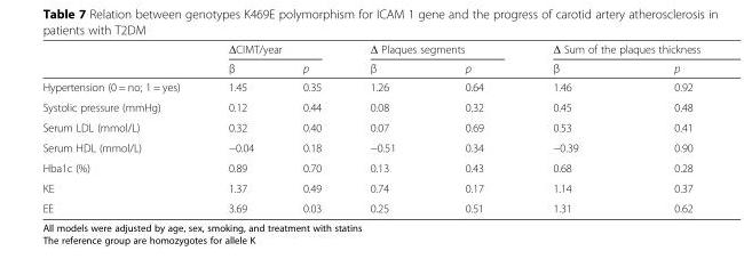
<table><thead><tr><td rowspan="2"></td><td colspan="2">ΔCIMT/year</td><td colspan="2">Δ Plaques segments</td><td colspan="2">Δ Sum of the plaques thickness</td></tr><tr><td>β</td><td>p</td><td>β</td><td>p</td><td>β</td><td>p</td></tr></thead><tbody><tr><td>Hypertension (0 = no; 1 = yes)</td><td>1.45</td><td>0.35</td><td>1.26</td><td>0.64</td><td>1.46</td><td>0.92</td></tr><tr><td>Systolic pressure (mmHg)</td><td>0.12</td><td>0.44</td><td>0.08</td><td>0.32</td><td>0.45</td><td>0.48</td></tr><tr><td>Serum LDL (mmol/L)</td><td>0.32</td><td>0.40</td><td>0.07</td><td>0.69</td><td>0.53</td><td>0.41</td></tr><tr><td>Serum HDL (mmol/L)</td><td>−0.04</td><td>0.18</td><td>−0.51</td><td>0.34</td><td>−0.39</td><td>0.90</td></tr><tr><td>Hba1c (%)</td><td>0.89</td><td>0.70</td><td>0.13</td><td>0.43</td><td>0.68</td><td>0.28</td></tr><tr><td>KE</td><td>1.37</td><td>0.49</td><td>0.74</td><td>0.17</td><td>1.14</td><td>0.37</td></tr><tr><td>EE</td><td>3.69</td><td>0.03</td><td>0.25</td><td>0.51</td><td>1.31</td><td>0.62</td></tr></tbody></table>